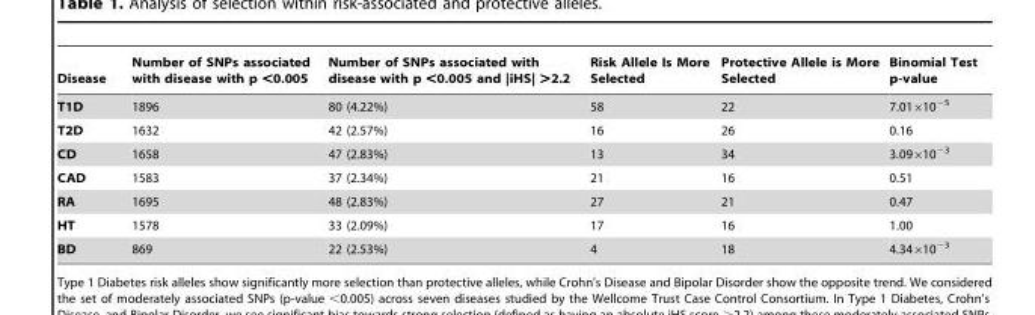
<table><thead><tr><td>Disease</td><td>Number of SNPs associated with disease with p &lt;0.005</td><td>Number of SNPs associated with disease with p &lt;0.005 and |iHS| &gt;2.2</td><td>Risk Allele Is More Selected</td><td>Protective Allele is More Selected</td><td>Binomial Test p-value</td></tr></thead><tbody><tr><td>T1D</td><td>1896</td><td>80 (4.22%)</td><td>58</td><td>22</td><td>7.01×10<sup>−5</sup></td></tr><tr><td>T2D</td><td>1632</td><td>42 (2.57%)</td><td>16</td><td>26</td><td>0.16</td></tr><tr><td>CD</td><td>1658</td><td>47 (2.83%)</td><td>13</td><td>34</td><td>3.09×10<sup>−3</sup></td></tr><tr><td>CAD</td><td>1583</td><td>37 (2.34%)</td><td>21</td><td>16</td><td>0.51</td></tr><tr><td>RA</td><td>1695</td><td>48 (2.83%)</td><td>27</td><td>21</td><td>0.47</td></tr><tr><td>HT</td><td>1578</td><td>33 (2.09%)</td><td>17</td><td>16</td><td>1.00</td></tr><tr><td>BD</td><td>869</td><td>22 (2.53%)</td><td>4</td><td>18</td><td>4.34×10<sup>−3</sup></td></tr></tbody></table>